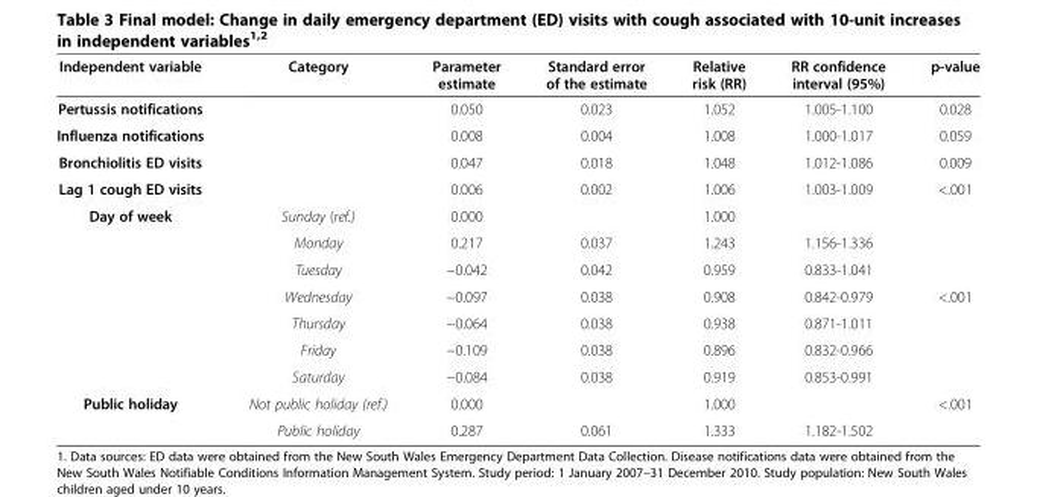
<table><thead><tr><td>Independent variable</td><td>Category</td><td>Parameter estimate</td><td>Standard error of the estimate</td><td>Relative risk (RR)</td><td>RR confidence interval (95%)</td><td>p-value</td></tr></thead><tbody><tr><td>Pertussis notifications</td><td></td><td>0.050</td><td>0.023</td><td>1.052</td><td>1.005-1.100</td><td>0.028</td></tr><tr><td>Influenza notifications</td><td></td><td>0.008</td><td>0.004</td><td>1.008</td><td>1.000-1.017</td><td>0.059</td></tr><tr><td>Bronchiolitis ED visits</td><td></td><td>0.047</td><td>0.018</td><td>1.048</td><td>1.012-1.086</td><td>0.009</td></tr><tr><td>Lag 1 cough ED visits</td><td></td><td>0.006</td><td>0.002</td><td>1.006</td><td>1.003-1.009</td><td>&lt;.001</td></tr><tr><td rowspan="7">Day of week</td><td>Sunday (ref.)</td><td>0.000</td><td></td><td>1.000</td><td></td><td></td></tr><tr><td>Monday</td><td>0.217</td><td>0.037</td><td>1.243</td><td>1.156-1.336</td><td></td></tr><tr><td>Tuesday</td><td>−0.042</td><td>0.042</td><td>0.959</td><td>0.833-1.041</td><td></td></tr><tr><td>Wednesday</td><td>−0.097</td><td>0.038</td><td>0.908</td><td>0.842-0.979</td><td>&lt;.001</td></tr><tr><td>Thursday</td><td>−0.064</td><td>0.038</td><td>0.938</td><td>0.871-1.011</td><td></td></tr><tr><td>Friday</td><td>−0.109</td><td>0.038</td><td>0.896</td><td>0.832-0.966</td><td></td></tr><tr><td>Saturday</td><td>−0.084</td><td>0.038</td><td>0.919</td><td>0.853-0.991</td><td></td></tr><tr><td rowspan="2">Public holiday</td><td>Not public holiday (ref.)</td><td>0.000</td><td></td><td>1.000</td><td></td><td rowspan="2">&lt;.001</td></tr><tr><td>Public holiday</td><td>0.287</td><td>0.061</td><td>1.333</td><td>1.182-1.502</td></tr></tbody></table>